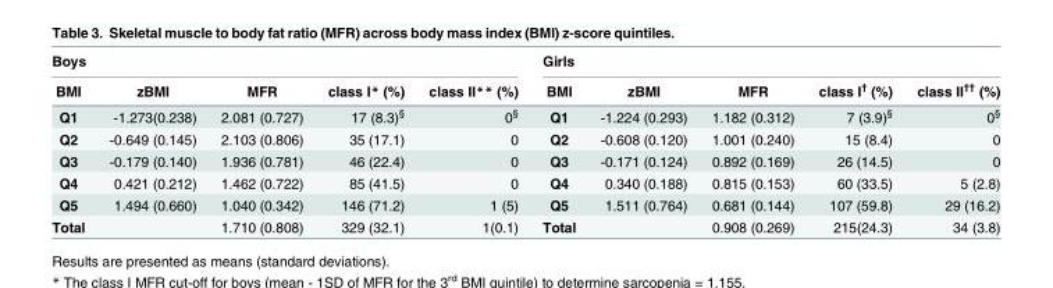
<table><thead><tr><td colspan="5">Boys</td><td colspan="5">Girls</td></tr><tr><td>BMI</td><td>zBMI</td><td>MFR</td><td>class I* (%)</td><td>class II** (%)</td><td>BMI</td><td>zBMI</td><td>MFR</td><td>class I<sup>†</sup> (%)</td><td>class II<sup>††</sup> (%)</td></tr></thead><tbody><tr><td>Q1</td><td>-1.273(0.238)</td><td>2.081 (0.727)</td><td>17 (8.3)<sup>§</sup></td><td>0<sup>§</sup></td><td>Q1</td><td>-1.224 (0.293)</td><td>1.182 (0.312)</td><td>7 (3.9)<sup>§</sup></td><td>0<sup>§</sup></td></tr><tr><td>Q2</td><td>-0.649 (0.145)</td><td>2.103 (0.806)</td><td>35 (17.1)</td><td>0</td><td>Q2</td><td>-0.608 (0.120)</td><td>1.001 (0.240)</td><td>15 (8.4)</td><td>0</td></tr><tr><td>Q3</td><td>-0.179 (0.140)</td><td>1.936 (0.781)</td><td>46 (22.4)</td><td>0</td><td>Q3</td><td>-0.171 (0.124)</td><td>0.892 (0.169)</td><td>26 (14.5)</td><td>0</td></tr><tr><td>Q4</td><td>0.421 (0.212)</td><td>1.462 (0.722)</td><td>85 (41.5)</td><td>0</td><td>Q4</td><td>0.340 (0.188)</td><td>0.815 (0.153)</td><td>60 (33.5)</td><td>5 (2.8)</td></tr><tr><td>Q5</td><td>1.494 (0.660)</td><td>1.040 (0.342)</td><td>146 (71.2)</td><td>1 (5)</td><td>Q5</td><td>1.511 (0.764)</td><td>0.681 (0.144)</td><td>107 (59.8)</td><td>29 (16.2)</td></tr><tr><td>Total</td><td></td><td>1.710 (0.808)</td><td>329 (32.1)</td><td>1(0.1)</td><td>Total</td><td></td><td>0.908 (0.269)</td><td>215(24.3)</td><td>34 (3.8)</td></tr></tbody></table>